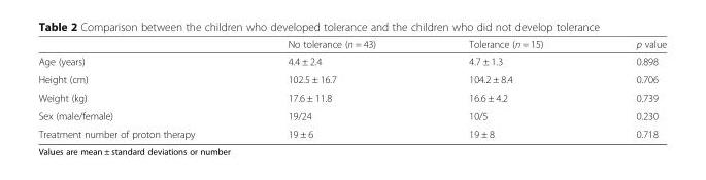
<table><thead><tr><td></td><td>No tolerance (n = 43)</td><td>Tolerance (n = 15)</td><td>p value</td></tr></thead><tbody><tr><td>Age (years)</td><td>4.4 ± 2.4</td><td>4.7 ± 1.3</td><td>0.898</td></tr><tr><td>Height (cm)</td><td>102.5 ± 16.7</td><td>104.2 ± 8.4</td><td>0.706</td></tr><tr><td>Weight (kg)</td><td>17.6 ± 11.8</td><td>16.6 ± 4.2</td><td>0.739</td></tr><tr><td>Sex (male/female)</td><td>19/24</td><td>10/5</td><td>0.230</td></tr><tr><td>Treatment number of proton therapy</td><td>19 ± 6</td><td>19 ± 8</td><td>0.718</td></tr></tbody></table>